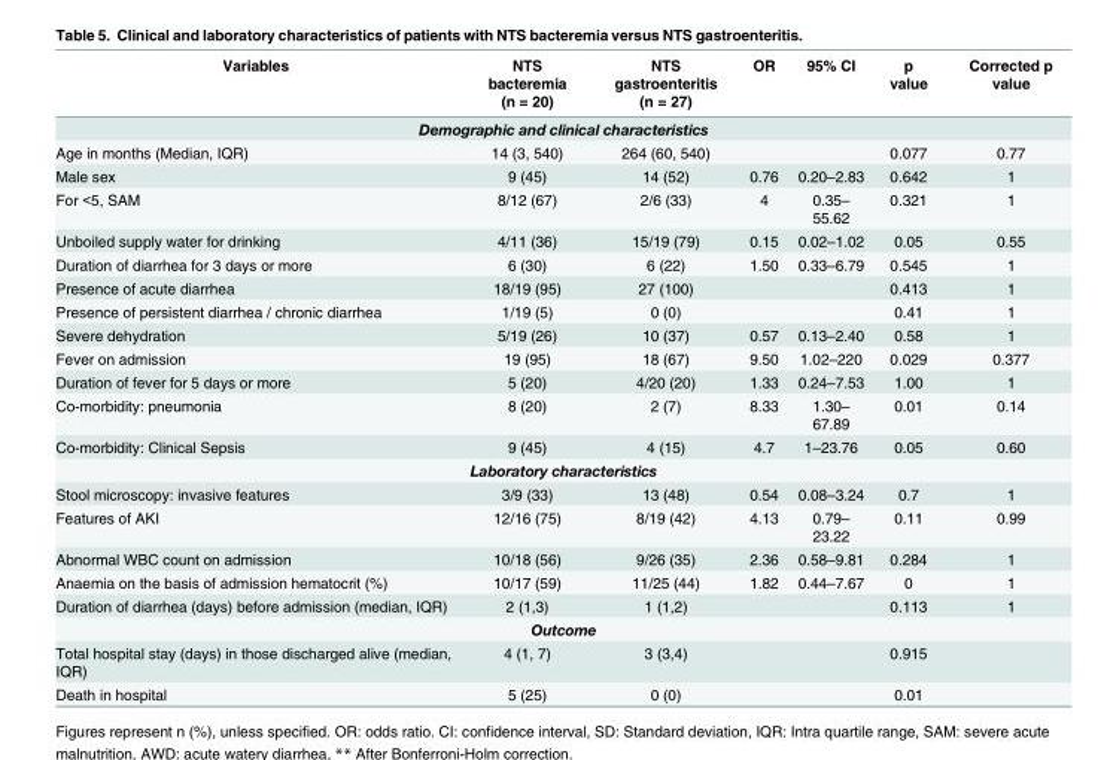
<table><thead><tr><td rowspan="2">Variables</td><td rowspan="2">NTS bacteremia (n = 20)</td><td rowspan="2">NTS gastroenteritis (n = 27)</td><td rowspan="2">OR</td><td rowspan="2">95% CI</td><td rowspan="2">p value</td><td rowspan="2">Corrected p value</td></tr><tr></tr></thead><tbody><tr><td colspan="7">Demographic and clinical characteristics</td></tr><tr><td>Age in months (Median, IQR)</td><td>14 (3, 540)</td><td>264 (60, 540)</td><td></td><td></td><td>0.077</td><td>0.77</td></tr><tr><td>Male sex</td><td>9 (45)</td><td>14 (52)</td><td>0.76</td><td>0.20–2.83</td><td>0.642</td><td>1</td></tr><tr><td>For &lt;5, SAM</td><td>8/12 (67)</td><td>2/6 (33)</td><td>4</td><td>0.35– 55.62</td><td>0.321</td><td>1</td></tr><tr><td>Unboiled supply water for drinking</td><td>4/11 (36)</td><td>15/19 (79)</td><td>0.15</td><td>0.02–1.02</td><td>0.05</td><td>0.55</td></tr><tr><td>Duration of diarrhea for 3 days or more</td><td>6 (30)</td><td>6 (22)</td><td>1.50</td><td>0.33–6.79</td><td>0.545</td><td>1</td></tr><tr><td>Presence of acute diarrhea</td><td>18/19 (95)</td><td>27 (100)</td><td></td><td></td><td>0.413</td><td>1</td></tr><tr><td>Presence of persistent diarrhea / chronic diarrhea</td><td>1/19 (5)</td><td>0 (0)</td><td></td><td></td><td>0.41</td><td>1</td></tr><tr><td>Severe dehydration</td><td>5/19 (26)</td><td>10 (37)</td><td>0.57</td><td>0.13–2.40</td><td>0.58</td><td>1</td></tr><tr><td>Fever on admission</td><td>19 (95)</td><td>18 (67)</td><td>9.50</td><td>1.02–220</td><td>0.029</td><td>0.377</td></tr><tr><td>Duration of fever for 5 days or more</td><td>5 (20)</td><td>4/20 (20)</td><td>1.33</td><td>0.24–7.53</td><td>1.00</td><td>1</td></tr><tr><td>Co-morbidity: pneumonia</td><td>8 (20)</td><td>2 (7)</td><td>8.33</td><td>1.30– 67.89</td><td>0.01</td><td>0.14</td></tr><tr><td>Co-morbidity: Clinical Sepsis</td><td>9 (45)</td><td>4 (15)</td><td>4.7</td><td>1–23.76</td><td>0.05</td><td>0.60</td></tr><tr><td colspan="7">Laboratory characteristics</td></tr><tr><td>Stool microscopy: invasive features</td><td>3/9 (33)</td><td>13 (48)</td><td>0.54</td><td>0.08–3.24</td><td>0.7</td><td>1</td></tr><tr><td>Features of AKI</td><td>12/16 (75)</td><td>8/19 (42)</td><td>4.13</td><td>0.79– 23.22</td><td>0.11</td><td>0.99</td></tr><tr><td>Abnormal WBC count on admission</td><td>10/18 (56)</td><td>9/26 (35)</td><td>2.36</td><td>0.58–9.81</td><td>0.284</td><td>1</td></tr><tr><td>Anaemia on the basis of admission hematocrit (%)</td><td>10/17 (59)</td><td>11/25 (44)</td><td>1.82</td><td>0.44–7.67</td><td>0</td><td>1</td></tr><tr><td>Duration of diarrhea (days) before admission (median, IQR)</td><td>2 (1,3)</td><td>1 (1,2)</td><td></td><td></td><td>0.113</td><td>1</td></tr><tr><td colspan="7">Outcome</td></tr><tr><td>Total hospital stay (days) in those discharged alive (median, IQR)</td><td>4 (1, 7)</td><td>3 (3,4)</td><td></td><td></td><td>0.915</td><td></td></tr><tr><td>Death in hospital</td><td>5 (25)</td><td>0 (0)</td><td></td><td></td><td>0.01</td><td></td></tr></tbody></table>